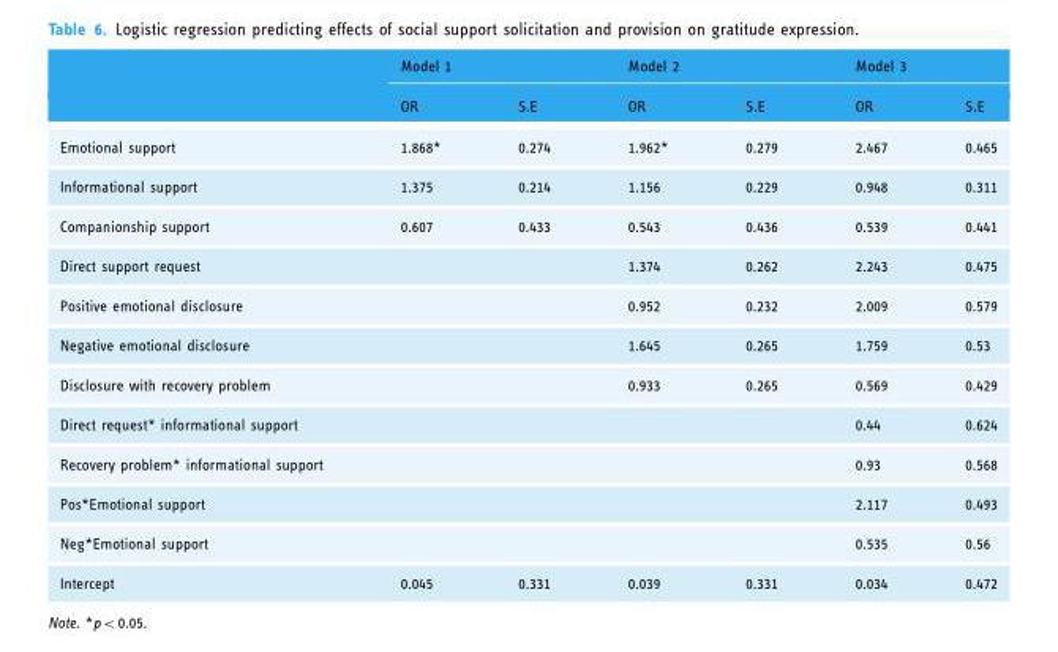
<table><thead><tr><td rowspan="2"></td><td colspan="2">Model 1</td><td colspan="2">Model 2</td><td colspan="2">Model 3</td></tr><tr><td>OR</td><td>S.E</td><td>OR</td><td>S.E</td><td>OR</td><td>S.E</td></tr></thead><tbody><tr><td>Emotional support</td><td>1.868*</td><td>0.274</td><td>1.962*</td><td>0.279</td><td>2.467</td><td>0.465</td></tr><tr><td>Informational support</td><td>1.375</td><td>0.214</td><td>1.156</td><td>0.229</td><td>0.948</td><td>0.311</td></tr><tr><td>Companionship support</td><td>0.607</td><td>0.433</td><td>0.543</td><td>0.436</td><td>0.539</td><td>0.441</td></tr><tr><td>Direct support request</td><td></td><td></td><td>1.374</td><td>0.262</td><td>2.243</td><td>0.475</td></tr><tr><td>Positive emotional disclosure</td><td></td><td></td><td>0.952</td><td>0.232</td><td>2.009</td><td>0.579</td></tr><tr><td>Negative emotional disclosure</td><td></td><td></td><td>1.645</td><td>0.265</td><td>1.759</td><td>0.53</td></tr><tr><td>Disclosure with recovery problem</td><td></td><td></td><td>0.933</td><td>0.265</td><td>0.569</td><td>0.429</td></tr><tr><td>Direct request* informational support</td><td></td><td></td><td></td><td></td><td>0.44</td><td>0.624</td></tr><tr><td>Recovery problem* informational support</td><td></td><td></td><td></td><td></td><td>0.93</td><td>0.568</td></tr><tr><td>Pos*Emotional support</td><td></td><td></td><td></td><td></td><td>2.117</td><td>0.493</td></tr><tr><td>Neg*Emotional support</td><td></td><td></td><td></td><td></td><td>0.535</td><td>0.56</td></tr><tr><td>Intercept</td><td>0.045</td><td>0.331</td><td>0.039</td><td>0.331</td><td>0.034</td><td>0.472</td></tr></tbody></table>